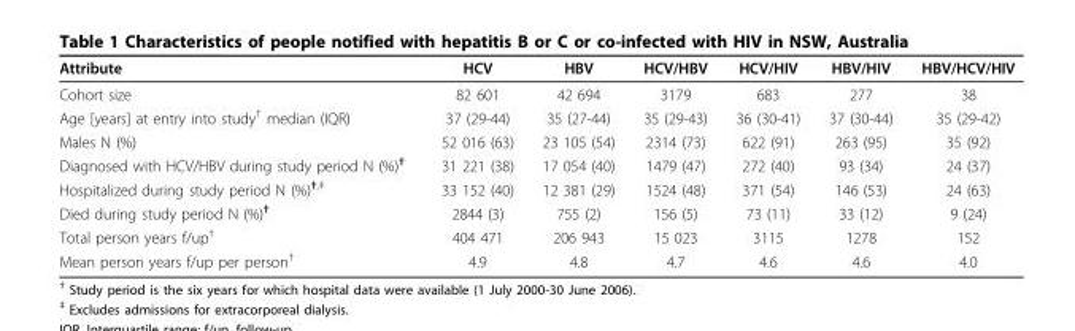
<table><thead><tr><td>Attribute</td><td>HCV</td><td>HBV</td><td>HCV/HBV</td><td>HCV/HIV</td><td>HBV/HIV</td><td>HBV/HCV/HIV</td></tr></thead><tbody><tr><td>Cohort size</td><td>82 601</td><td>42 694</td><td>3179</td><td>683</td><td>277</td><td>38</td></tr><tr><td>Age [years] at entry into study<sup>†</sup> median (IQR)</td><td>37 (29-44)</td><td>35 (27-44)</td><td>35 (29-43)</td><td>36 (30-41)</td><td>37 (30-44)</td><td>35 (29-42)</td></tr><tr><td>Males N (%)</td><td>52 016 (63)</td><td>23 105 (54)</td><td>2314 (73)</td><td>622 (91)</td><td>263 (95)</td><td>35 (92)</td></tr><tr><td>Diagnosed with HCV/HBV during study period N (%)<sup>†</sup></td><td>31 221 (38)</td><td>17 054 (40)</td><td>1479 (47)</td><td>272 (40)</td><td>93 (34)</td><td>24 (37)</td></tr><tr><td>Hospitalized during study period N (%)<sup>†,‡</sup></td><td>33 152 (40)</td><td>12 381 (29)</td><td>1524 (48)</td><td>371 (54)</td><td>146 (53)</td><td>24 (63)</td></tr><tr><td>Died during study period N (%)<sup>†</sup></td><td>2844 (3)</td><td>755 (2)</td><td>156 (5)</td><td>73 (11)</td><td>33 (12)</td><td>9 (24)</td></tr><tr><td>Total person years f/up<sup>†</sup></td><td>404 471</td><td>206 943</td><td>15 023</td><td>3115</td><td>1278</td><td>152</td></tr><tr><td>Mean person years f/up per person<sup>†</sup></td><td>4.9</td><td>4.8</td><td>4.7</td><td>4.6</td><td>4.6</td><td>4.0</td></tr></tbody></table>